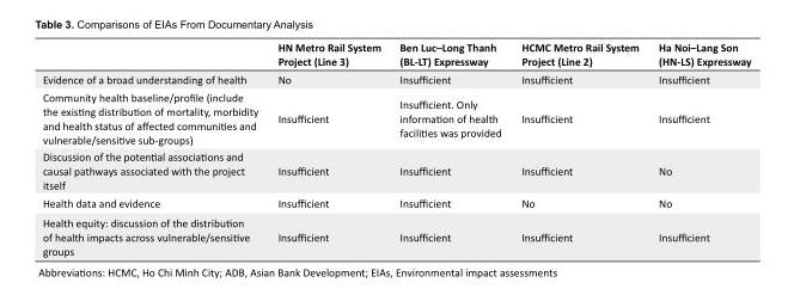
<table><thead><tr><td></td><td>HN Metro Rail System Project (Line 3)</td><td>Ben Luc–Long Thanh (BL-LT) Expressway</td><td>HCMC Metro Rail System Project (Line 2)</td><td>Ha Noi–Lang Son (HN-LS) Expressway</td></tr></thead><tbody><tr><td>Evidence of a broad understanding of health</td><td>No</td><td>Insufficient</td><td>Insufficient</td><td>Insufficient</td></tr><tr><td>Community health baseline/profile (include the existing distribution of mortality, morbidity and health status of affected communities and vulnerable/sensitive sub-groups)</td><td>Insufficient</td><td>Insufficient. Only information of health facilities was provided</td><td>Insufficient</td><td>Insufficient</td></tr><tr><td>Discussion of the potential associations and causal pathways associated with the project itself</td><td>Insufficient</td><td>Insufficient</td><td>Insufficient</td><td>No</td></tr><tr><td>Health data and evidence</td><td>Insufficient</td><td>Insufficient</td><td>No</td><td>No</td></tr><tr><td>Health equity: discussion of the distribution of health impacts across vulnerable/sensitive groups</td><td>Insufficient</td><td>Insufficient</td><td>Insufficient</td><td>Insufficient</td></tr></tbody></table>